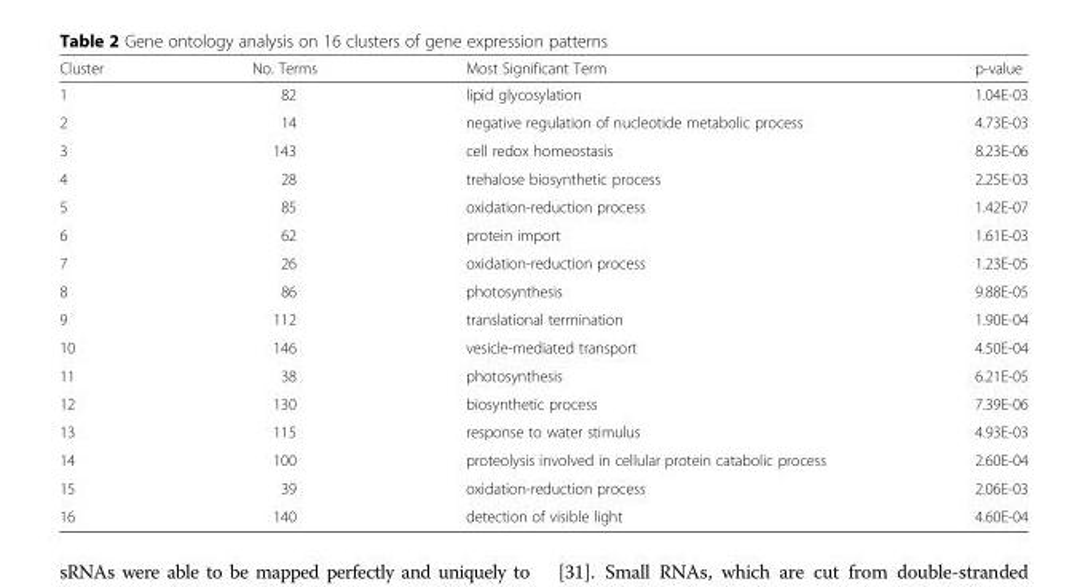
<table><thead><tr><td>Cluster</td><td>No. Terms</td><td>Most Significant Term</td><td>p-value</td></tr></thead><tbody><tr><td>1</td><td>82</td><td>lipid glycosylation</td><td>1.04E-03</td></tr><tr><td>2</td><td>14</td><td>negative regulation of nucleotide metabolic process</td><td>4.73E-03</td></tr><tr><td>3</td><td>143</td><td>cell redox homeostasis</td><td>8.23E-06</td></tr><tr><td>4</td><td>28</td><td>trehalose biosynthetic process</td><td>2.25E-03</td></tr><tr><td>5</td><td>85</td><td>oxidation-reduction process</td><td>1.42E-07</td></tr><tr><td>6</td><td>62</td><td>protein import</td><td>1.61E-03</td></tr><tr><td>7</td><td>26</td><td>oxidation-reduction process</td><td>1.23E-05</td></tr><tr><td>8</td><td>86</td><td>photosynthesis</td><td>9.88E-05</td></tr><tr><td>9</td><td>112</td><td>translational termination</td><td>1.90E-04</td></tr><tr><td>10</td><td>146</td><td>vesicle-mediated transport</td><td>4.50E-04</td></tr><tr><td>11</td><td>38</td><td>photosynthesis</td><td>6.21E-05</td></tr><tr><td>12</td><td>130</td><td>biosynthetic process</td><td>7.39E-06</td></tr><tr><td>13</td><td>115</td><td>response to water stimulus</td><td>4.93E-03</td></tr><tr><td>14</td><td>100</td><td>proteolysis involved in cellular protein catabolic process</td><td>2.60E-04</td></tr><tr><td>15</td><td>39</td><td>oxidation-reduction process</td><td>2.06E-03</td></tr><tr><td>16</td><td>140</td><td>detection of visible light</td><td>4.60E-04</td></tr></tbody></table>